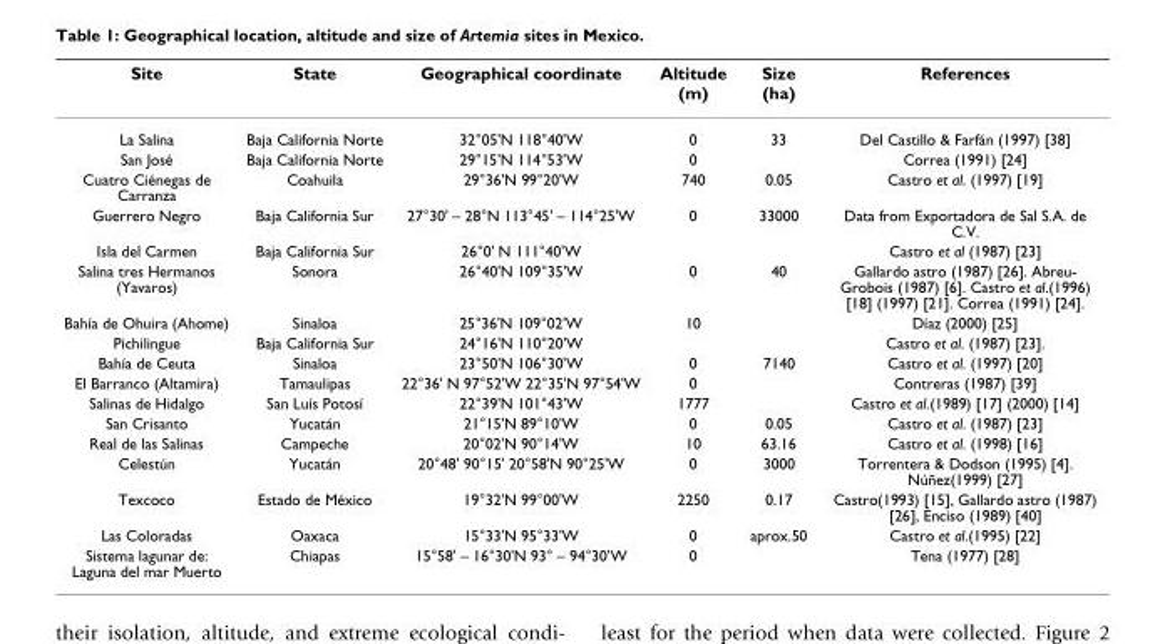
<table><thead><tr><td>Site</td><td>State</td><td>Geographical coordinate</td><td>Altitude (m)</td><td>Size (ha)</td><td>References</td></tr></thead><tbody><tr><td>La Salina</td><td>Baja California Norte</td><td>32°05&#x27;N 118°40&#x27;W</td><td>0</td><td>33</td><td>Del Castillo &amp; Farfán (1997) [38]</td></tr><tr><td>San José</td><td>Baja California Norte</td><td>29°15&#x27;N 114°53&#x27;W</td><td>0</td><td></td><td>Correa (1991) [24]</td></tr><tr><td>Cuatro Ciénegas de Carranza</td><td>Coahuila</td><td>29°36&#x27;N 99°20&#x27;W</td><td>740</td><td>0.05</td><td>Castro et al. (1997) [19]</td></tr><tr><td>Guerrero Negro</td><td>Baja California Sur</td><td>27°30&#x27; – 28°N 113°45&#x27; – 114°25&#x27;W</td><td>0</td><td>33000</td><td>Data from Exportadora de Sal S.A. de C.V.</td></tr><tr><td>Isla del Carmen</td><td>Baja California Sur</td><td>26°0&#x27; N 111°40&#x27;W</td><td></td><td></td><td>Castro et al (1987) [23]</td></tr><tr><td>Salina tres Hermanos (Yavaros)</td><td>Sonora</td><td>26°40&#x27;N 109°35&#x27;W</td><td>0</td><td>40</td><td>Gallardo astro (1987) [26]. Abreu- Grobois (1987) [6]. Castro et al.(1996) [18] (1997) [21]. Correa (1991) [24].</td></tr><tr><td>Bahía de Ohuira (Ahome)</td><td>Sinaloa</td><td>25°36&#x27;N 109°02&#x27;W</td><td>10</td><td></td><td>Díaz (2000) [25]</td></tr><tr><td>Pichilingue</td><td>Baja California Sur</td><td>24°16&#x27;N 110°20&#x27;W</td><td></td><td></td><td>Castro et al. (1987) [23].</td></tr><tr><td>Bahía de Ceuta</td><td>Sinaloa</td><td>23°50&#x27;N 106°30&#x27;W</td><td>0</td><td>7140</td><td>Castro et al. (1997) [20]</td></tr><tr><td>El Barranco (Altamira)</td><td>Tamaulipas</td><td>22°36&#x27; N 97°52&#x27;W 22°35&#x27;N 97°54&#x27;W</td><td>0</td><td></td><td>Contreras (1987) [39]</td></tr><tr><td>Salinas de Hidalgo</td><td>San Luís Potosí</td><td>22°39&#x27;N 101°43&#x27;W</td><td>1777</td><td></td><td>Castro et al.(1989) [17] (2000) [14]</td></tr><tr><td>San Crisanto</td><td>Yucatán</td><td>21°15&#x27;N 89°10&#x27;W</td><td>0</td><td>0.05</td><td>Castro et al. (1987) [23]</td></tr><tr><td>Real de las Salinas</td><td>Campeche</td><td>20°02&#x27;N 90°14&#x27;W</td><td>10</td><td>63.16</td><td>Castro et al. (1998) [16]</td></tr><tr><td>Celestún</td><td>Yucatán</td><td>20°48&#x27; 90°15&#x27; 20°58&#x27;N 90°25&#x27;W</td><td>0</td><td>3000</td><td>Torrentera &amp; Dodson (1995) [4]. Núñez(1999) [27]</td></tr><tr><td>Texcoco</td><td>Estado de México</td><td>19°32&#x27;N 99°00&#x27;W</td><td>2250</td><td>0.17</td><td>Castro(1993) [15], Gallardo astro (1987) [26], Enciso (1989) [40]</td></tr><tr><td>Las Coloradas</td><td>Oaxaca</td><td>15°33&#x27;N 95°33&#x27;W</td><td>0</td><td>aprox.50</td><td>Castro et al.(1995) [22]</td></tr><tr><td>Sistema lagunar de: Laguna del mar Muerto</td><td>Chiapas</td><td>15°58&#x27; – 16°30&#x27;N 93° – 94°30&#x27;W</td><td>0</td><td></td><td>Tena (1977) [28]</td></tr></tbody></table>